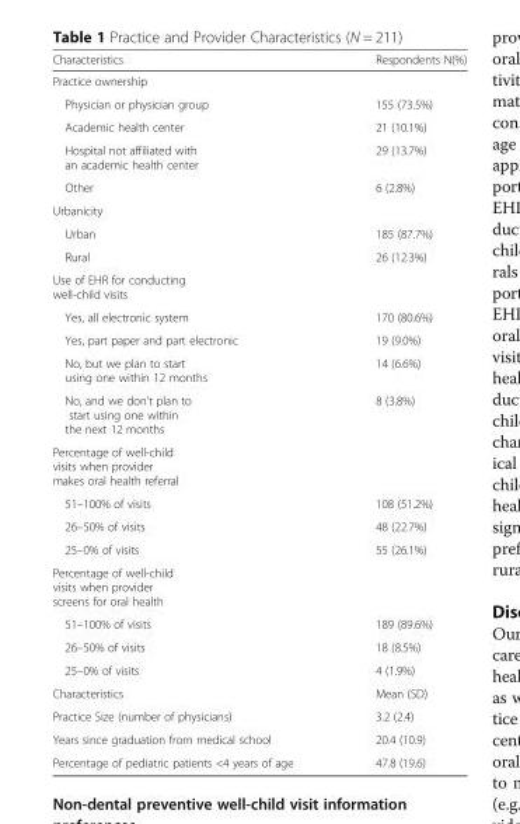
<table><thead><tr><td>Characteristics</td><td>Respondents N(%)</td></tr></thead><tbody><tr><td colspan="2">Practice ownership</td></tr><tr><td>Physician or physician group</td><td>155 (73.5%)</td></tr><tr><td>Academic health center</td><td>21 (10.1%)</td></tr><tr><td>Hospital not affiliated with an academic health center</td><td>29 (13.7%)</td></tr><tr><td>Other</td><td>6 (2.8%)</td></tr><tr><td colspan="2">Urbanicity</td></tr><tr><td>Urban</td><td>185 (87.7%)</td></tr><tr><td>Rural</td><td>26 (12.3%)</td></tr><tr><td colspan="2">Use of EHR for conducting well-child visits</td></tr><tr><td>Yes, all electronic system</td><td>170 (80.6%)</td></tr><tr><td>Yes, part paper and part electronic</td><td>19 (9.0%)</td></tr><tr><td>No, but we plan to start using one within 12 months</td><td>14 (6.6%)</td></tr><tr><td>No, and we don’t plan to start using one within the next 12 months</td><td>8 (3.8%)</td></tr><tr><td colspan="2">Percentage of well-child visits when provider makes oral health referral</td></tr><tr><td>51–100% of visits</td><td>108 (51.2%)</td></tr><tr><td>26–50% of visits</td><td>48 (22.7%)</td></tr><tr><td>25–0% of visits</td><td>55 (26.1%)</td></tr><tr><td colspan="2">Percentage of well-child visits when provider screens for oral health</td></tr><tr><td>51–100% of visits</td><td>189 (89.6%)</td></tr><tr><td>26–50% of visits</td><td>18 (8.5%)</td></tr><tr><td>25–0% of visits</td><td>4 (1.9%)</td></tr><tr><td>Characteristics</td><td>Mean (SD)</td></tr><tr><td>Practice Size (number of physicians)</td><td>3.2 (2.4)</td></tr><tr><td>Years since graduation from medical school</td><td>20.4 (10.9)</td></tr><tr><td>Percentage of pediatric patients &lt;4 years of age</td><td>47.8 (19.6)</td></tr></tbody></table>